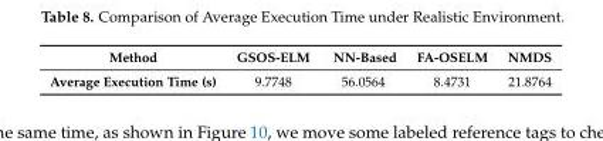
<table><thead><tr><td>Method</td><td>GSOS-ELM</td><td>NN-Based</td><td>FA-OSELM</td><td>NMDS</td></tr></thead><tbody><tr><td>Average Execution Time (s)</td><td>9.7748</td><td>56.0564</td><td>8.4731</td><td>21.8764</td></tr></tbody></table>